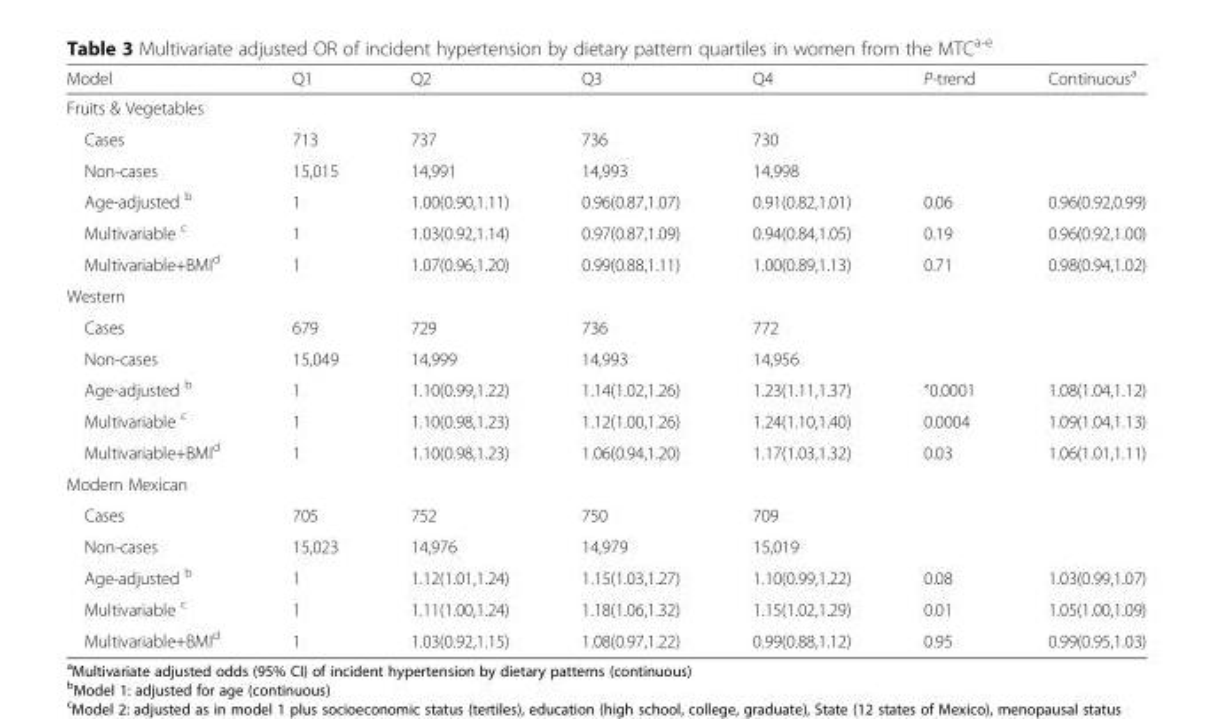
<table><thead><tr><td>Model</td><td>Q1</td><td>Q2</td><td>Q3</td><td>Q4</td><td>P-trend</td><td>Continuous<sup>a</sup></td></tr></thead><tbody><tr><td colspan="7">Fruits &amp; Vegetables</td></tr><tr><td>Cases</td><td>713</td><td>737</td><td>736</td><td>730</td><td></td><td></td></tr><tr><td>Non-cases</td><td>15,015</td><td>14,991</td><td>14,993</td><td>14,998</td><td></td><td></td></tr><tr><td>Age-adjusted <sup>b</sup></td><td>1</td><td>1.00(0.90,1.11)</td><td>0.96(0.87,1.07)</td><td>0.91(0.82,1.01)</td><td>0.06</td><td>0.96(0.92,0.99)</td></tr><tr><td>Multivariable <sup>c</sup></td><td>1</td><td>1.03(0.92,1.14)</td><td>0.97(0.87,1.09)</td><td>0.94(0.84,1.05)</td><td>0.19</td><td>0.96(0.92,1.00)</td></tr><tr><td>Multivariable+BMI<sup>d</sup></td><td>1</td><td>1.07(0.96,1.20)</td><td>0.99(0.88,1.11)</td><td>1.00(0.89,1.13)</td><td>0.71</td><td>0.98(0.94,1.02)</td></tr><tr><td colspan="7">Western</td></tr><tr><td>Cases</td><td>679</td><td>729</td><td>736</td><td>772</td><td></td><td></td></tr><tr><td>Non-cases</td><td>15,049</td><td>14,999</td><td>14,993</td><td>14,956</td><td></td><td></td></tr><tr><td>Age-adjusted <sup>b</sup></td><td>1</td><td>1.10(0.99,1.22)</td><td>1.14(1.02,1.26)</td><td>1.23(1.11,1.37)</td><td>˂0.0001</td><td>1.08(1.04,1.12)</td></tr><tr><td>Multivariable <sup>c</sup></td><td>1</td><td>1.10(0.98,1.23)</td><td>1.12(1.00,1.26)</td><td>1.24(1.10,1.40)</td><td>0.0004</td><td>1.09(1.04,1.13)</td></tr><tr><td>Multivariable+BMI<sup>d</sup></td><td>1</td><td>1.10(0.98,1.23)</td><td>1.06(0.94,1.20)</td><td>1.17(1.03,1.32)</td><td>0.03</td><td>1.06(1.01,1.11)</td></tr><tr><td colspan="7">Modern Mexican</td></tr><tr><td>Cases</td><td>705</td><td>752</td><td>750</td><td>709</td><td></td><td></td></tr><tr><td>Non-cases</td><td>15,023</td><td>14,976</td><td>14,979</td><td>15,019</td><td></td><td></td></tr><tr><td>Age-adjusted <sup>b</sup></td><td>1</td><td>1.12(1.01,1.24)</td><td>1.15(1.03,1.27)</td><td>1.10(0.99,1.22)</td><td>0.08</td><td>1.03(0.99,1.07)</td></tr><tr><td>Multivariable <sup>c</sup></td><td>1</td><td>1.11(1.00,1.24)</td><td>1.18(1.06,1.32)</td><td>1.15(1.02,1.29)</td><td>0.01</td><td>1.05(1.00,1.09)</td></tr><tr><td>Multivariable+BMI<sup>d</sup></td><td>1</td><td>1.03(0.92,1.15)</td><td>1.08(0.97,1.22)</td><td>0.99(0.88,1.12)</td><td>0.95</td><td>0.99(0.95,1.03)</td></tr></tbody></table>